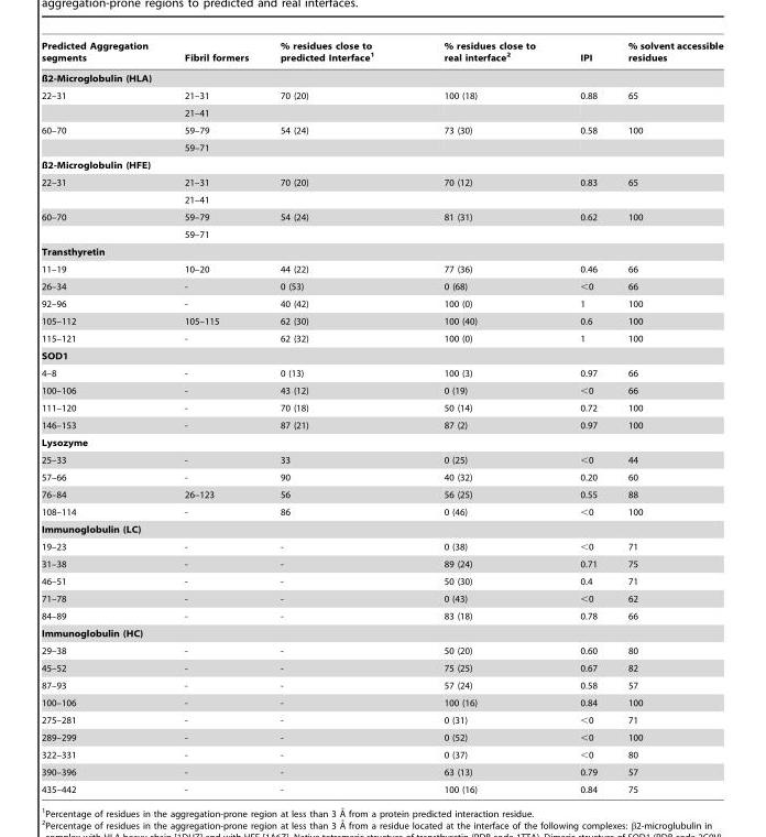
<table><thead><tr><td>Predicted Aggregation segments</td><td>Fibril formers</td><td>% residues close to predicted Interface<sup>1</sup></td><td>% residues close to real interface<sup>2</sup></td><td>IPI</td><td>% solvent accessible residues</td></tr></thead><tbody><tr><td colspan="6">ß2-Microglobulin (HLA)</td></tr><tr><td rowspan="2">22–31</td><td>21–31</td><td>70 (20)</td><td>100 (18)</td><td>0.88</td><td>65</td></tr><tr><td>21–41</td><td></td><td></td><td></td><td></td></tr><tr><td rowspan="2">60–70</td><td>59–79</td><td>54 (24)</td><td>73 (30)</td><td>0.58</td><td>100</td></tr><tr><td>59–71</td><td></td><td></td><td></td><td></td></tr><tr><td colspan="6">ß2-Microglobulin (HFE)</td></tr><tr><td rowspan="2">22–31</td><td>21–31</td><td>70 (20)</td><td>70 (12)</td><td>0.83</td><td>65</td></tr><tr><td>21–41</td><td></td><td></td><td></td><td></td></tr><tr><td rowspan="2">60–70</td><td>59–79</td><td>54 (24)</td><td>81 (31)</td><td>0.62</td><td>100</td></tr><tr><td>59–71</td><td></td><td></td><td></td><td></td></tr><tr><td colspan="6">Transthyretin</td></tr><tr><td>11–19</td><td>10–20</td><td>44 (22)</td><td>77 (36)</td><td>0.46</td><td>66</td></tr><tr><td>26–34</td><td>-</td><td>0 (53)</td><td>0 (68)</td><td>&lt;0</td><td>66</td></tr><tr><td>92–96</td><td>-</td><td>40 (42)</td><td>100 (0)</td><td>1</td><td>100</td></tr><tr><td>105–112</td><td>105–115</td><td>62 (30)</td><td>100 (40)</td><td>0.6</td><td>100</td></tr><tr><td>115–121</td><td>-</td><td>62 (32)</td><td>100 (0)</td><td>1</td><td>100</td></tr><tr><td colspan="6">SOD1</td></tr><tr><td>4–8</td><td>-</td><td>0 (13)</td><td>100 (3)</td><td>0.97</td><td>66</td></tr><tr><td>100–106</td><td>-</td><td>43 (12)</td><td>0 (19)</td><td>&lt;0</td><td>66</td></tr><tr><td>111–120</td><td>-</td><td>70 (18)</td><td>50 (14)</td><td>0.72</td><td>100</td></tr><tr><td>146–153</td><td>-</td><td>87 (21)</td><td>87 (2)</td><td>0.97</td><td>100</td></tr><tr><td colspan="6">Lysozyme</td></tr><tr><td>25–33</td><td>-</td><td>33</td><td>0 (25)</td><td>&lt;0</td><td>44</td></tr><tr><td>57–66</td><td>-</td><td>90</td><td>40 (32)</td><td>0.20</td><td>60</td></tr><tr><td>76–84</td><td>26–123</td><td>56</td><td>56 (25)</td><td>0.55</td><td>88</td></tr><tr><td>108–114</td><td>-</td><td>86</td><td>0 (46)</td><td>&lt;0</td><td>100</td></tr><tr><td colspan="6">Immunoglobulin (LC)</td></tr><tr><td>19–23</td><td>-</td><td>-</td><td>0 (38)</td><td>&lt;0</td><td>71</td></tr><tr><td>31–38</td><td>-</td><td>-</td><td>89 (24)</td><td>0.71</td><td>75</td></tr><tr><td>46–51</td><td>-</td><td>-</td><td>50 (30)</td><td>0.4</td><td>71</td></tr><tr><td>71–78</td><td>-</td><td>-</td><td>0 (43)</td><td>&lt;0</td><td>62</td></tr><tr><td>84–89</td><td>-</td><td>-</td><td>83 (18)</td><td>0.78</td><td>66</td></tr><tr><td colspan="6">Immunoglobulin (HC)</td></tr><tr><td>29–38</td><td>-</td><td>-</td><td>50 (20)</td><td>0.60</td><td>80</td></tr><tr><td>45–52</td><td>-</td><td>-</td><td>75 (25)</td><td>0.67</td><td>82</td></tr><tr><td>87–93</td><td>-</td><td>-</td><td>57 (24)</td><td>0.58</td><td>57</td></tr><tr><td>100–106</td><td>-</td><td>-</td><td>100 (16)</td><td>0.84</td><td>100</td></tr><tr><td>275–281</td><td>-</td><td>-</td><td>0 (31)</td><td>&lt;0</td><td>71</td></tr><tr><td>289–299</td><td>-</td><td>-</td><td>0 (52)</td><td>&lt;0</td><td>100</td></tr><tr><td>322–331</td><td>-</td><td>-</td><td>0 (37)</td><td>&lt;0</td><td>80</td></tr><tr><td>390–396</td><td>-</td><td>-</td><td>63 (13)</td><td>0.79</td><td>57</td></tr><tr><td>435–442</td><td>-</td><td>-</td><td>100 (16)</td><td>0.84</td><td>75</td></tr></tbody></table>